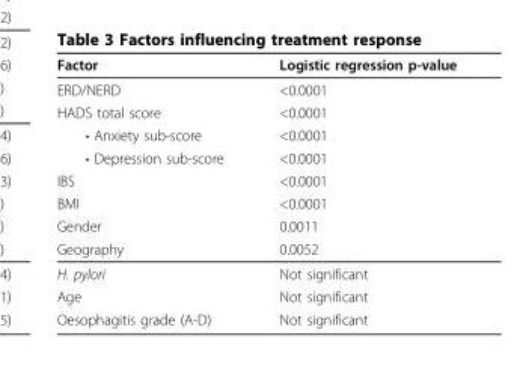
<table><thead><tr><td>Factor</td><td>Logistic regression p-value</td></tr></thead><tbody><tr><td>ERD/NERD</td><td>&lt;0.0001</td></tr><tr><td>HADS total score</td><td>&lt;0.0001</td></tr><tr><td>• Anxiety sub-score</td><td>&lt;0.0001</td></tr><tr><td>• Depression sub-score</td><td>&lt;0.0001</td></tr><tr><td>IBS</td><td>&lt;0.0001</td></tr><tr><td>BMI</td><td>&lt;0.0001</td></tr><tr><td>Gender</td><td>0.0011</td></tr><tr><td>Geography</td><td>0.0052</td></tr><tr><td>H. pylori</td><td>Not significant</td></tr><tr><td>Age</td><td>Not significant</td></tr><tr><td>Oesophagitis grade (A-D)</td><td>Not significant</td></tr></tbody></table>